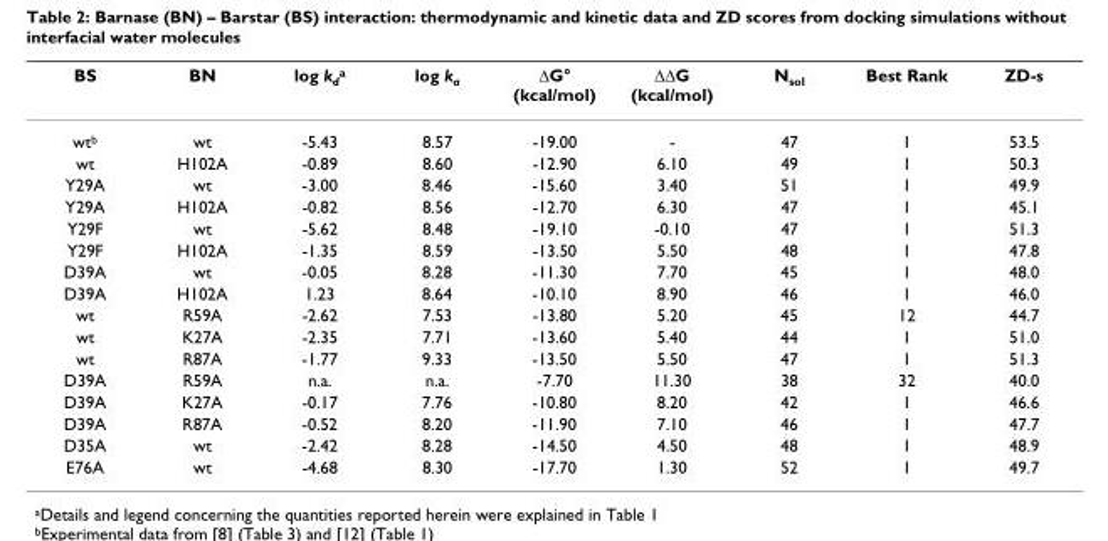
<table><thead><tr><td>BS</td><td>BN</td><td>log k<sub>d</sub><sup>a</sup></td><td>log k<sub>a</sub></td><td>∆G° (kcal/mol)</td><td>∆∆G (kcal/mol)</td><td>N<sub>sol</sub></td><td>Best Rank</td><td>ZD-s</td></tr></thead><tbody><tr><td>wt<sup>b</sup></td><td>wt</td><td>-5.43</td><td>8.57</td><td>-19.00</td><td>-</td><td>47</td><td>1</td><td>53.5</td></tr><tr><td>wt</td><td>H102A</td><td>-0.89</td><td>8.60</td><td>-12.90</td><td>6.10</td><td>49</td><td>1</td><td>50.3</td></tr><tr><td>Y29A</td><td>wt</td><td>-3.00</td><td>8.46</td><td>-15.60</td><td>3.40</td><td>51</td><td>1</td><td>49.9</td></tr><tr><td>Y29A</td><td>H102A</td><td>-0.82</td><td>8.56</td><td>-12.70</td><td>6.30</td><td>47</td><td>1</td><td>45.1</td></tr><tr><td>Y29F</td><td>wt</td><td>-5.62</td><td>8.48</td><td>-19.10</td><td>-0.10</td><td>47</td><td>1</td><td>51.3</td></tr><tr><td>Y29F</td><td>H102A</td><td>-1.35</td><td>8.59</td><td>-13.50</td><td>5.50</td><td>48</td><td>1</td><td>47.8</td></tr><tr><td>D39A</td><td>wt</td><td>-0.05</td><td>8.28</td><td>-11.30</td><td>7.70</td><td>45</td><td>1</td><td>48.0</td></tr><tr><td>D39A</td><td>H102A</td><td>1.23</td><td>8.64</td><td>-10.10</td><td>8.90</td><td>46</td><td>1</td><td>46.0</td></tr><tr><td>wt</td><td>R59A</td><td>-2.62</td><td>7.53</td><td>-13.80</td><td>5.20</td><td>45</td><td>12</td><td>44.7</td></tr><tr><td>wt</td><td>K27A</td><td>-2.35</td><td>7.71</td><td>-13.60</td><td>5.40</td><td>44</td><td>1</td><td>51.0</td></tr><tr><td>wt</td><td>R87A</td><td>-1.77</td><td>9.33</td><td>-13.50</td><td>5.50</td><td>47</td><td>1</td><td>51.3</td></tr><tr><td>D39A</td><td>R59A</td><td>n.a.</td><td>n.a.</td><td>-7.70</td><td>11.30</td><td>38</td><td>32</td><td>40.0</td></tr><tr><td>D39A</td><td>K27A</td><td>-0.17</td><td>7.76</td><td>-10.80</td><td>8.20</td><td>42</td><td>1</td><td>46.6</td></tr><tr><td>D39A</td><td>R87A</td><td>-0.52</td><td>8.20</td><td>-11.90</td><td>7.10</td><td>46</td><td>1</td><td>47.7</td></tr><tr><td>D35A</td><td>wt</td><td>-2.42</td><td>8.28</td><td>-14.50</td><td>4.50</td><td>48</td><td>1</td><td>48.9</td></tr><tr><td>E76A</td><td>wt</td><td>-4.68</td><td>8.30</td><td>-17.70</td><td>1.30</td><td>52</td><td>1</td><td>49.7</td></tr></tbody></table>